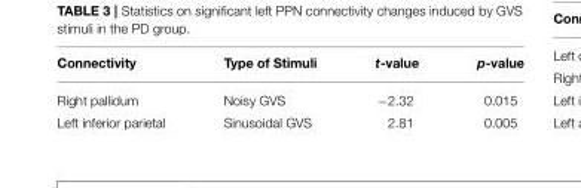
<table><thead><tr><td>Connectivity</td><td>Type of Stimuli</td><td>t-value</td><td>p-value</td></tr></thead><tbody><tr><td>Right pallidum</td><td>Noisy GVS</td><td>−2.32</td><td>0.015</td></tr><tr><td>Left inferior parietal</td><td>Sinusoidal GVS</td><td>2.81</td><td>0.005</td></tr></tbody></table>